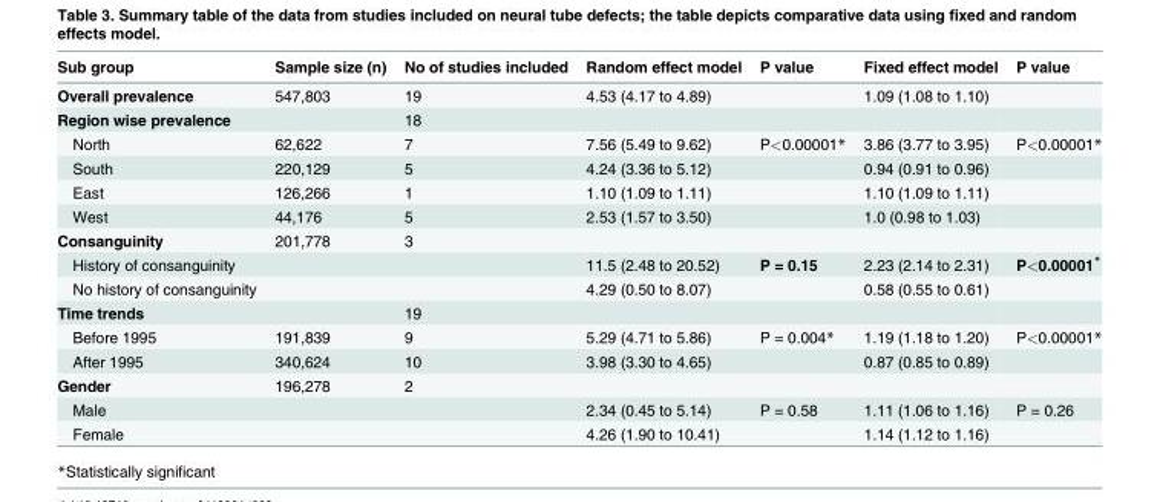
<table><thead><tr><td>Sub group</td><td>Sample size (n)</td><td>No of studies included</td><td>Random effect model</td><td>P value</td><td>Fixed effect model</td><td>P value</td></tr></thead><tbody><tr><td>Overall prevalence</td><td>547,803</td><td>19</td><td>4.53 (4.17 to 4.89)</td><td></td><td>1.09 (1.08 to 1.10)</td><td></td></tr><tr><td>Region wise prevalence</td><td></td><td>18</td><td></td><td></td><td></td><td></td></tr><tr><td>North</td><td>62,622</td><td>7</td><td>7.56 (5.49 to 9.62)</td><td>P&lt;0.00001*</td><td>3.86 (3.77 to 3.95)</td><td>P&lt;0.00001*</td></tr><tr><td>South</td><td>220,129</td><td>5</td><td>4.24 (3.36 to 5.12)</td><td></td><td>0.94 (0.91 to 0.96)</td><td></td></tr><tr><td>East</td><td>126,266</td><td>1</td><td>1.10 (1.09 to 1.11)</td><td></td><td>1.10 (1.09 to 1.11)</td><td></td></tr><tr><td>West</td><td>44,176</td><td>5</td><td>2.53 (1.57 to 3.50)</td><td></td><td>1.0 (0.98 to 1.03)</td><td></td></tr><tr><td>Consanguinity</td><td>201,778</td><td>3</td><td></td><td></td><td></td><td></td></tr><tr><td>History of consanguinity</td><td></td><td></td><td>11.5 (2.48 to 20.52)</td><td>P = 0.15</td><td>2.23 (2.14 to 2.31)</td><td>P&lt;0.00001*</td></tr><tr><td>No history of consanguinity</td><td></td><td></td><td>4.29 (0.50 to 8.07)</td><td></td><td>0.58 (0.55 to 0.61)</td><td></td></tr><tr><td>Time trends</td><td></td><td>19</td><td></td><td></td><td></td><td></td></tr><tr><td>Before 1995</td><td>191,839</td><td>9</td><td>5.29 (4.71 to 5.86)</td><td>P = 0.004*</td><td>1.19 (1.18 to 1.20)</td><td>P&lt;0.00001*</td></tr><tr><td>After 1995</td><td>340,624</td><td>10</td><td>3.98 (3.30 to 4.65)</td><td></td><td>0.87 (0.85 to 0.89)</td><td></td></tr><tr><td>Gender</td><td>196,278</td><td>2</td><td></td><td></td><td></td><td></td></tr><tr><td>Male</td><td></td><td></td><td>2.34 (0.45 to 5.14)</td><td>P = 0.58</td><td>1.11 (1.06 to 1.16)</td><td>P = 0.26</td></tr><tr><td>Female</td><td></td><td></td><td>4.26 (1.90 to 10.41)</td><td></td><td>1.14 (1.12 to 1.16)</td><td></td></tr></tbody></table>